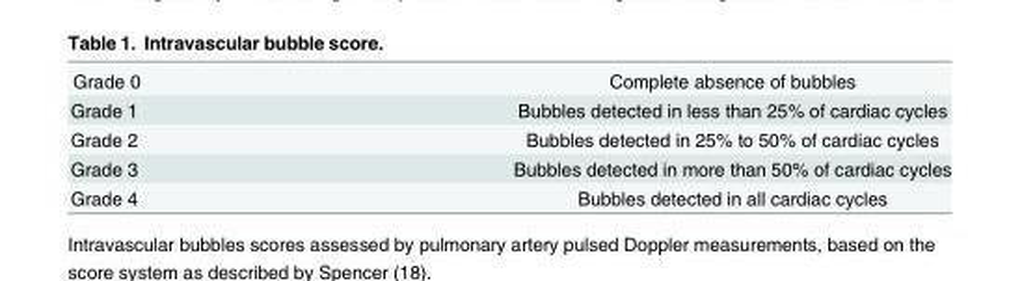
<table><tbody><tr><td>Grade 0</td><td>Complete absence of bubbles</td></tr><tr><td>Grade 1</td><td>Bubbles detected in less than 25% of cardiac cycles</td></tr><tr><td>Grade 2</td><td>Bubbles detected in 25% to 50% of cardiac cycles</td></tr><tr><td>Grade 3</td><td>Bubbles detected in more than 50% of cardiac cycles</td></tr><tr><td>Grade 4</td><td>Bubbles detected in all cardiac cycles</td></tr></tbody></table>